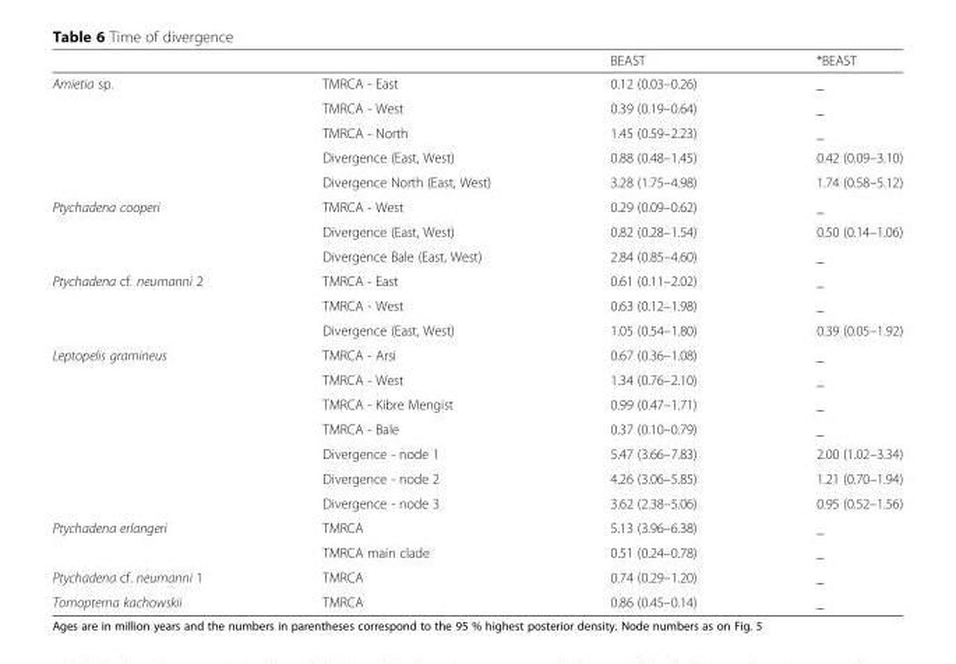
<table><thead><tr><td></td><td></td><td>BEAST</td><td>*BEAST</td></tr></thead><tbody><tr><td rowspan="5">Amietia sp.</td><td>TMRCA - East</td><td>0.12 (0.03–0.26)</td><td>_</td></tr><tr><td>TMRCA - West</td><td>0.39 (0.19–0.64)</td><td>_</td></tr><tr><td>TMRCA - North</td><td>1.45 (0.59–2.23)</td><td>_</td></tr><tr><td>Divergence (East, West)</td><td>0.88 (0.48–1.45)</td><td>0.42 (0.09–3.10)</td></tr><tr><td>Divergence North (East, West)</td><td>3.28 (1.75–4.98)</td><td>1.74 (0.58–5.12)</td></tr><tr><td rowspan="3">Ptychadena cooperi</td><td>TMRCA - West</td><td>0.29 (0.09–0.62)</td><td>_</td></tr><tr><td>Divergence (East, West)</td><td>0.82 (0.28–1.54)</td><td>0.50 (0.14–1.06)</td></tr><tr><td>Divergence Bale (East, West)</td><td>2.84 (0.85–4.60)</td><td>_</td></tr><tr><td rowspan="3">Ptychadena cf. neumanni 2</td><td>TMRCA - East</td><td>0.61 (0.11–2.02)</td><td>_</td></tr><tr><td>TMRCA - West</td><td>0.63 (0.12–1.98)</td><td>_</td></tr><tr><td>Divergence (East, West)</td><td>1.05 (0.54–1.80)</td><td>0.39 (0.05–1.92)</td></tr><tr><td rowspan="7">Leptopelis gramineus</td><td>TMRCA - Arsi</td><td>0.67 (0.36–1.08)</td><td>_</td></tr><tr><td>TMRCA - West</td><td>1.34 (0.76–2.10)</td><td>_</td></tr><tr><td>TMRCA - Kibre Mengist</td><td>0.99 (0.47–1.71)</td><td>_</td></tr><tr><td>TMRCA - Bale</td><td>0.37 (0.10–0.79)</td><td>_</td></tr><tr><td>Divergence - node 1</td><td>5.47 (3.66–7.83)</td><td>2.00 (1.02–3.34)</td></tr><tr><td>Divergence - node 2</td><td>4.26 (3.06–5.85)</td><td>1.21 (0.70–1.94)</td></tr><tr><td>Divergence - node 3</td><td>3.62 (2.38–5.06)</td><td>0.95 (0.52–1.56)</td></tr><tr><td rowspan="2">Ptychadena erlangeri</td><td>TMRCA</td><td>5.13 (3.96–6.38)</td><td>_</td></tr><tr><td>TMRCA main clade</td><td>0.51 (0.24–0.78)</td><td>_</td></tr><tr><td>Ptychadena cf. neumanni 1</td><td>TMRCA</td><td>0.74 (0.29–1.20)</td><td>_</td></tr><tr><td>Tomopterna kachowskii</td><td>TMRCA</td><td>0.86 (0.45–0.14)</td><td>_</td></tr></tbody></table>